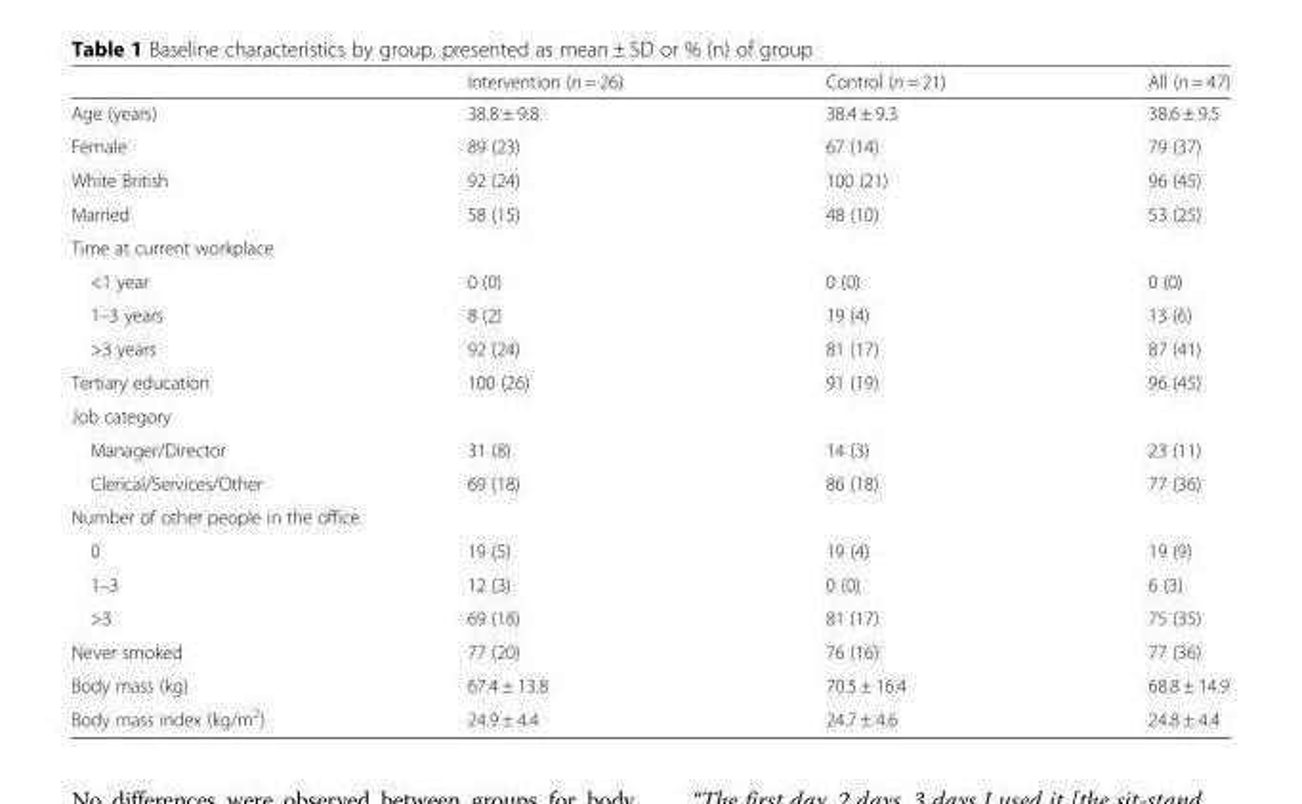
<table><thead><tr><td></td><td>Intervention (n = 26)</td><td>Control (n = 21)</td><td>All (n = 47)</td></tr></thead><tbody><tr><td>Age (years)</td><td>38.8 ± 9.8</td><td>38.4 ± 9.3</td><td>38.6 ± 9.5</td></tr><tr><td>Female</td><td>89 (23)</td><td>67 (14)</td><td>79 (37)</td></tr><tr><td>White British</td><td>92 (24)</td><td>100 (21)</td><td>96 (45)</td></tr><tr><td>Married</td><td>58 (15)</td><td>48 (10)</td><td>53 (25)</td></tr><tr><td colspan="4">Time at current workplace</td></tr><tr><td>&lt;1 year</td><td>0 (0)</td><td>0 (0)</td><td>0 (0)</td></tr><tr><td>1–3 years</td><td>8 (2)</td><td>19 (4)</td><td>13 (6)</td></tr><tr><td>&gt;3 years</td><td>92 (24)</td><td>81 (17)</td><td>87 (41)</td></tr><tr><td>Tertiary education</td><td>100 (26)</td><td>91 (19)</td><td>96 (45)</td></tr><tr><td colspan="4">Job category</td></tr><tr><td>Manager/Director</td><td>31 (8)</td><td>14 (3)</td><td>23 (11)</td></tr><tr><td>Clerical/Services/Other</td><td>69 (18)</td><td>86 (18)</td><td>77 (36)</td></tr><tr><td colspan="4">Number of other people in the office</td></tr><tr><td>0</td><td>19 (5)</td><td>19 (4)</td><td>19 (9)</td></tr><tr><td>1–3</td><td>12 (3)</td><td>0 (0)</td><td>6 (3)</td></tr><tr><td>&gt;3</td><td>69 (18)</td><td>81 (17)</td><td>75 (35)</td></tr><tr><td>Never smoked</td><td>77 (20)</td><td>76 (16)</td><td>77 (36)</td></tr><tr><td>Body mass (kg)</td><td>67.4 ± 13.8</td><td>70.5 ± 16.4</td><td>68.8 ± 14.9</td></tr><tr><td>Body mass index (kg/m<sup>2</sup>)</td><td>24.9 ± 4.4</td><td>24.7 ± 4.6</td><td>24.8 ± 4.4</td></tr></tbody></table>